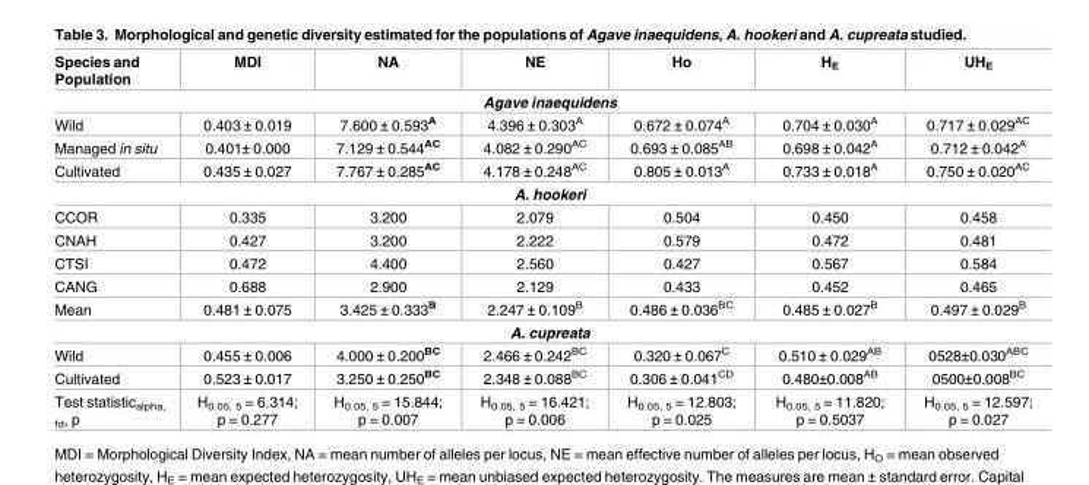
<table><thead><tr><td>Species and Population</td><td>MDI</td><td>NA</td><td>NE</td><td>Ho</td><td>H<sub>E</sub></td><td>UH<sub>E</sub></td></tr></thead><tbody><tr><td colspan="7">Agave inaequidens</td></tr><tr><td>Wild</td><td>0.403 ± 0.019</td><td>7.600 ± 0.593<sup>A</sup></td><td>4.396 ± 0.303<sup>A</sup></td><td>0.672 ± 0.074<sup>A</sup></td><td>0.704 ± 0.030<sup>A</sup></td><td>0.717 ± 0.029<sup>AC</sup></td></tr><tr><td>Managed in situ</td><td>0.401± 0.000</td><td>7.129 ± 0.544<sup>AC</sup></td><td>4.082 ± 0.290<sup>AC</sup></td><td>0.693 ± 0.085<sup>AB</sup></td><td>0.698 ± 0.042<sup>A</sup></td><td>0.712 ± 0.042<sup>A</sup></td></tr><tr><td>Cultivated</td><td>0.435 ± 0.027</td><td>7.767 ± 0.285<sup>AC</sup></td><td>4.178 ± 0.248<sup>AC</sup></td><td>0.805 ± 0.013<sup>A</sup></td><td>0.733 ± 0.018<sup>A</sup></td><td>0.750 ± 0.020<sup>AC</sup></td></tr><tr><td colspan="7">A. hookeri</td></tr><tr><td>CCOR</td><td>0.335</td><td>3.200</td><td>2.079</td><td>0.504</td><td>0.450</td><td>0.458</td></tr><tr><td>CNAH</td><td>0.427</td><td>3.200</td><td>2.222</td><td>0.579</td><td>0.472</td><td>0.481</td></tr><tr><td>CTSI</td><td>0.472</td><td>4.400</td><td>2.560</td><td>0.427</td><td>0.567</td><td>0.584</td></tr><tr><td>CANG</td><td>0.688</td><td>2.900</td><td>2.129</td><td>0.433</td><td>0.452</td><td>0.465</td></tr><tr><td>Mean</td><td>0.481 ± 0.075</td><td>3.425 ± 0.333<sup>B</sup></td><td>2.247 ± 0.109<sup>B</sup></td><td>0.486 ± 0.036<sup>BC</sup></td><td>0.485 ± 0.027<sup>B</sup></td><td>0.497 ± 0.029<sup>B</sup></td></tr><tr><td colspan="7">A. cupreata</td></tr><tr><td>Wild</td><td>0.455 ± 0.006</td><td>4.000 ± 0.200<sup>BC</sup></td><td>2.466 ± 0.242<sup>BC</sup></td><td>0.320 ± 0.067<sup>C</sup></td><td>0.510 ± 0.029<sup>AB</sup></td><td>0528±0.030<sup>ABC</sup></td></tr><tr><td>Cultivated</td><td>0.523 ± 0.017</td><td>3.250 ± 0.250<sup>BC</sup></td><td>2.348 ± 0.088<sup>BC</sup></td><td>0.306 ± 0.041<sup>CD</sup></td><td>0.480±0.008<sup>AB</sup></td><td>0500±0.008<sup>BC</sup></td></tr><tr><td>Test statistic<sub>alpha, fd</sub>, p</td><td>H<sub>0.05, 5</sub> = 6.314; p = 0.277</td><td>H<sub>0.05, 5</sub> = 15.844; p = 0.007</td><td>H<sub>0.05, 5</sub> = 16.421; p = 0.006</td><td>H<sub>0.05, 5</sub> = 12.803; p = 0.025</td><td>H<sub>0.05, 5</sub> = 11.820; p = 0.5037</td><td>H<sub>0.05, 5</sub> = 12.597; p = 0.027</td></tr></tbody></table>